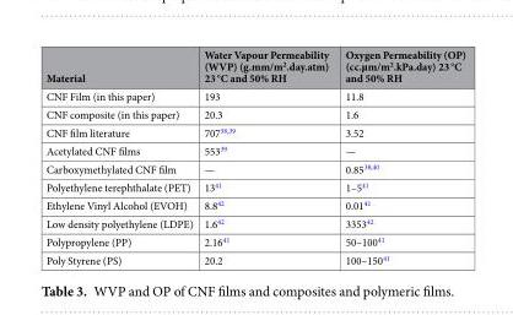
<table><thead><tr><td>Material</td><td>Water Vapour Permeability (WVP) (g.mm/m<sup>2</sup>.day.atm) 23 °C and 50% RH</td><td>Oxygen Permeability (OP) (cc.µm/m<sup>2</sup>.kPa.day) 23 °C and 50% RH</td></tr></thead><tbody><tr><td>CNF Film (in this paper)</td><td>193</td><td>11.8</td></tr><tr><td>CNF composite (in this paper)</td><td>20.3</td><td>1.6</td></tr><tr><td>CNF film literature</td><td>707<sup>38,39</sup></td><td>3.52</td></tr><tr><td>Acetylated CNF films</td><td>553<sup>39</sup></td><td>—</td></tr><tr><td>Carboxymethylated CNF film</td><td>—</td><td>0.85<sup>38,40</sup></td></tr><tr><td>Polyethylene terephthalate (PET)</td><td>13<sup>41</sup></td><td>1–5<sup>41</sup></td></tr><tr><td>Ethylene Vinyl Alcohol (EVOH)</td><td>8.8<sup>42</sup></td><td>0.01<sup>41</sup></td></tr><tr><td>Low density polyethylene (LDPE)</td><td>1.6<sup>42</sup></td><td>3353<sup>42</sup></td></tr><tr><td>Polypropylene (PP)</td><td>2.16<sup>41</sup></td><td>50–100<sup>41</sup></td></tr><tr><td>Poly Styrene (PS)</td><td>20.2</td><td>100–150<sup>41</sup></td></tr></tbody></table>